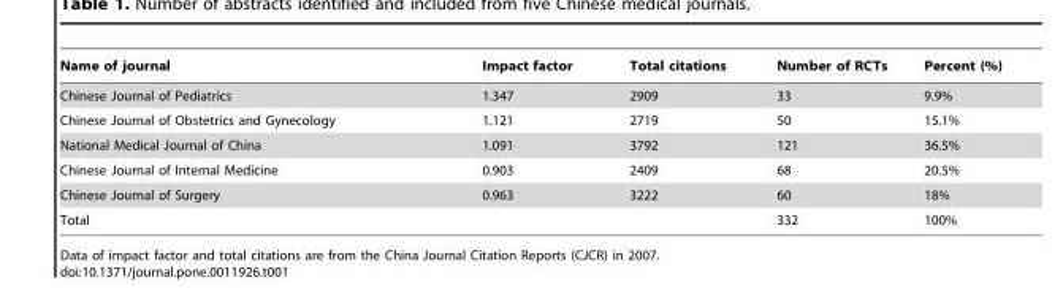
<table><thead><tr><td>Name of journal</td><td>Impact factor</td><td>Total citations</td><td>Number of RCTs</td><td>Percent (%)</td></tr></thead><tbody><tr><td>Chinese Journal of Pediatrics</td><td>1.347</td><td>2909</td><td>33</td><td>9.9%</td></tr><tr><td>Chinese Journal of Obstetrics and Gynecology</td><td>1.121</td><td>2719</td><td>50</td><td>15.1%</td></tr><tr><td>National Medical Journal of China</td><td>1.091</td><td>3792</td><td>121</td><td>36.5%</td></tr><tr><td>Chinese Journal of Internal Medicine</td><td>0.903</td><td>2409</td><td>68</td><td>20.5%</td></tr><tr><td>Chinese Journal of Surgery</td><td>0.963</td><td>3222</td><td>60</td><td>18%</td></tr><tr><td>Total</td><td></td><td></td><td>332</td><td>100%</td></tr></tbody></table>